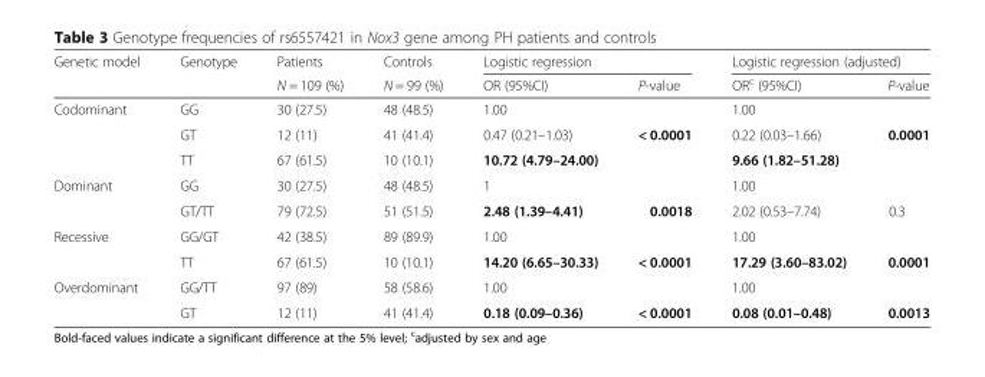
<table><thead><tr><td rowspan="2">Genetic model</td><td rowspan="2">Genotype</td><td rowspan="2">Patients N = 109 (%)</td><td rowspan="2">Controls N = 99 (%)</td><td colspan="2">Logistic regression</td><td colspan="2">Logistic regression (adjusted)</td></tr><tr><td>OR (95%CI)</td><td>P-value</td><td>OR<sup>c</sup> (95%CI)</td><td>P-value</td></tr></thead><tbody><tr><td rowspan="3">Codominant</td><td>GG</td><td>30 (27.5)</td><td>48 (48.5)</td><td>1.00</td><td></td><td>1.00</td><td></td></tr><tr><td>GT</td><td>12 (11)</td><td>41 (41.4)</td><td>0.47 (0.21–1.03)</td><td rowspan="2">&lt; 0.0001</td><td>0.22 (0.03–1.66)</td><td rowspan="2">0.0001</td></tr><tr><td>TT</td><td>67 (61.5)</td><td>10 (10.1)</td><td>10.72 (4.79–24.00)</td><td>9.66 (1.82–51.28)</td></tr><tr><td rowspan="2">Dominant</td><td>GG</td><td>30 (27.5)</td><td>48 (48.5)</td><td>1</td><td></td><td>1.00</td><td></td></tr><tr><td>GT/TT</td><td>79 (72.5)</td><td>51 (51.5)</td><td>2.48 (1.39–4.41)</td><td>0.0018</td><td>2.02 (0.53–7.74)</td><td>0.3</td></tr><tr><td rowspan="2">Recessive</td><td>GG/GT</td><td>42 (38.5)</td><td>89 (89.9)</td><td>1.00</td><td></td><td>1.00</td><td></td></tr><tr><td>TT</td><td>67 (61.5)</td><td>10 (10.1)</td><td>14.20 (6.65–30.33)</td><td>&lt; 0.0001</td><td>17.29 (3.60–83.02)</td><td>0.0001</td></tr><tr><td rowspan="2">Overdominant</td><td>GG/TT</td><td>97 (89)</td><td>58 (58.6)</td><td>1.00</td><td></td><td>1.00</td><td></td></tr><tr><td>GT</td><td>12 (11)</td><td>41 (41.4)</td><td>0.18 (0.09–0.36)</td><td>&lt; 0.0001</td><td>0.08 (0.01–0.48)</td><td>0.0013</td></tr></tbody></table>